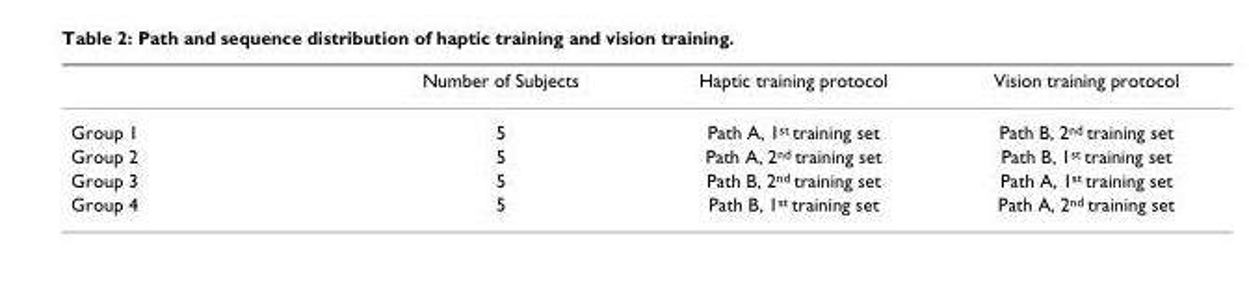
<table><thead><tr><td></td><td>Number of Subjects</td><td>Haptic training protocol</td><td>Vision training protocol</td></tr></thead><tbody><tr><td>Group 1</td><td>5</td><td>Path A, 1<sup>st</sup> training set</td><td>Path B, 2<sup>nd</sup> training set</td></tr><tr><td>Group 2</td><td>5</td><td>Path A, 2<sup>nd</sup> training set</td><td>Path B, 1<sup>st</sup> training set</td></tr><tr><td>Group 3</td><td>5</td><td>Path B, 2<sup>nd</sup> training set</td><td>Path A, 1<sup>st</sup> training set</td></tr><tr><td>Group 4</td><td>5</td><td>Path B, 1<sup>st</sup> training set</td><td>Path A, 2<sup>nd</sup> training set</td></tr></tbody></table>